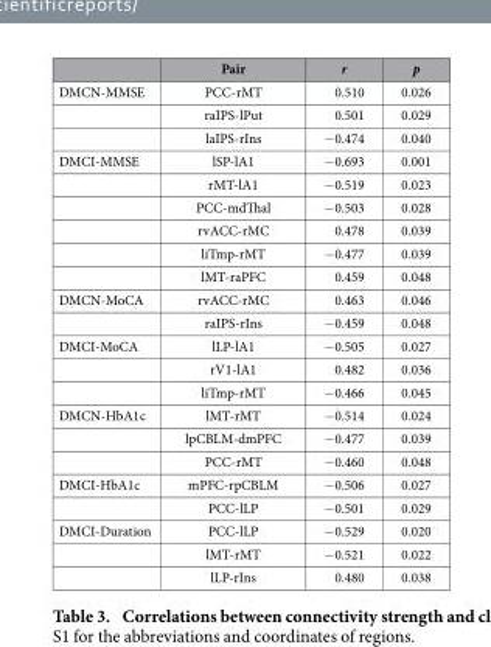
<table><thead><tr><td></td><td>Pair</td><td>r</td><td>p</td></tr></thead><tbody><tr><td rowspan="3">DMCN-MMSE</td><td>PCC-rMT</td><td>0.510</td><td>0.026</td></tr><tr><td>raIPS-lPut</td><td>0.501</td><td>0.029</td></tr><tr><td>laIPS-rIns</td><td>− 0.474</td><td>0.040</td></tr><tr><td rowspan="6">DMCI-MMSE</td><td>lSP-lA1</td><td>− 0.693</td><td>0.001</td></tr><tr><td>rMT-lA1</td><td>− 0.519</td><td>0.023</td></tr><tr><td>PCC-mdThal</td><td>− 0.503</td><td>0.028</td></tr><tr><td>rvACC-rMC</td><td>0.478</td><td>0.039</td></tr><tr><td>liTmp-rMT</td><td>− 0.477</td><td>0.039</td></tr><tr><td>lMT-raPFC</td><td>0.459</td><td>0.048</td></tr><tr><td rowspan="2">DMCN-MoCA</td><td>rvACC-rMC</td><td>0.463</td><td>0.046</td></tr><tr><td>raIPS-rIns</td><td>− 0.459</td><td>0.048</td></tr><tr><td rowspan="3">DMCI-MoCA</td><td>lLP-lA1</td><td>− 0.505</td><td>0.027</td></tr><tr><td>rV1-lA1</td><td>0.482</td><td>0.036</td></tr><tr><td>liTmp-rMT</td><td>− 0.466</td><td>0.045</td></tr><tr><td rowspan="3">DMCN-HbA1c</td><td>lMT-rMT</td><td>− 0.514</td><td>0.024</td></tr><tr><td>lpCBLM-dmPFC</td><td>− 0.477</td><td>0.039</td></tr><tr><td>PCC-rMT</td><td>− 0.460</td><td>0.048</td></tr><tr><td rowspan="2">DMCI-HbA1c</td><td>mPFC-rpCBLM</td><td>− 0.506</td><td>0.027</td></tr><tr><td>PCC-lLP</td><td>− 0.501</td><td>0.029</td></tr><tr><td rowspan="3">DMCI-Duration</td><td>PCC-lLP</td><td>− 0.529</td><td>0.020</td></tr><tr><td>lMT-rMT</td><td>− 0.521</td><td>0.022</td></tr><tr><td>lLP-rIns</td><td>0.480</td><td>0.038</td></tr></tbody></table>